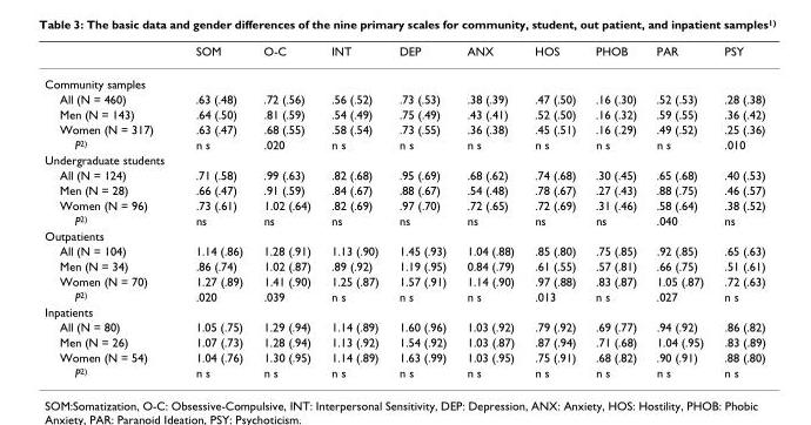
<table><thead><tr><td></td><td>SOM</td><td>O-C</td><td>INT</td><td>DEP</td><td>ANX</td><td>HOS</td><td>PHOB</td><td>PAR</td><td>PSY</td></tr></thead><tbody><tr><td colspan="10">Community samples</td></tr><tr><td>All (N = 460)</td><td>.63 (.48)</td><td>.72 (.56)</td><td>.56 (.52)</td><td>.73 (.53)</td><td>.38 (.39)</td><td>.47 (.50)</td><td>.16 (.30)</td><td>.52 (.53)</td><td>.28 (.38)</td></tr><tr><td>Men (N = 143)</td><td>.64 (.50)</td><td>.81 (.59)</td><td>.54 (.49)</td><td>.75 (.49)</td><td>.43 (.41)</td><td>.52 (.50)</td><td>.16 (.32)</td><td>.59 (.55)</td><td>.36 (.42)</td></tr><tr><td>Women (N = 317)</td><td>.63 (.47)</td><td>.68 (.55)</td><td>.58 (.54)</td><td>.73 (.55)</td><td>.36 (.38)</td><td>.45 (.51)</td><td>.16 (.29)</td><td>.49 (.52)</td><td>.25 (.36)</td></tr><tr><td>P<sup>2)</sup></td><td>n s</td><td>.020</td><td>n s</td><td>n s</td><td>n s</td><td>n s</td><td>n s</td><td>n s</td><td>.010</td></tr><tr><td colspan="10">Undergraduate students</td></tr><tr><td>All (N = 124)</td><td>.71 (.58)</td><td>.99 (.63)</td><td>.82 (.68)</td><td>.95 (.69)</td><td>.68 (.62)</td><td>.74 (.68)</td><td>.30 (.45)</td><td>.65 (.68)</td><td>.40 (.53)</td></tr><tr><td>Men (N = 28)</td><td>.66 (.47)</td><td>.91 (.59)</td><td>.84 (.67)</td><td>.88 (.67)</td><td>.54 (.48)</td><td>.78 (.67)</td><td>.27 (.43)</td><td>.88 (.75)</td><td>.46 (.57)</td></tr><tr><td>Women (N = 96)</td><td>.73 (.61)</td><td>1.02 (.64)</td><td>.82 (.69)</td><td>.97 (.70)</td><td>.72 (.65)</td><td>.72 (.69)</td><td>.31 (.46)</td><td>.58 (.64)</td><td>.38 (.52)</td></tr><tr><td>P<sup>2)</sup></td><td>ns</td><td>ns</td><td>ns</td><td>ns</td><td>ns</td><td>ns</td><td>ns</td><td>.040</td><td>ns</td></tr><tr><td colspan="10">Outpatients</td></tr><tr><td>All (N = 104)</td><td>1.14 (.86)</td><td>1.28 (.91)</td><td>1.13 (.90)</td><td>1.45 (.93)</td><td>1.04 (.88)</td><td>.85 (.80)</td><td>.75 (.85)</td><td>.92 (.85)</td><td>.65 (.63)</td></tr><tr><td>Men (N = 34)</td><td>.86 (.74)</td><td>1.02 (.87)</td><td>.89 (.92)</td><td>1.19 (.95)</td><td>0.84 (.79)</td><td>.61 (.55)</td><td>.57 (.81)</td><td>.66 (.75)</td><td>.51 (.61)</td></tr><tr><td>Women (N = 70)</td><td>1.27 (.89)</td><td>1.41 (.90)</td><td>1.25 (.87)</td><td>1.57 (.91)</td><td>1.14 (.90)</td><td>.97 (.88)</td><td>.83 (.87)</td><td>1.05 (.87)</td><td>.72 (.63)</td></tr><tr><td>P<sup>2)</sup></td><td>.020</td><td>.039</td><td>n s</td><td>n s</td><td>n s</td><td>.013</td><td>n s</td><td>.027</td><td>n s</td></tr><tr><td colspan="10">Inpatients</td></tr><tr><td>All (N = 80)</td><td>1.05 (.75)</td><td>1.29 (.94)</td><td>1.14 (.89)</td><td>1.60 (.96)</td><td>1.03 (.92)</td><td>.79 (.92)</td><td>.69 (.77)</td><td>.94 (.92)</td><td>.86 (.82)</td></tr><tr><td>Men (N = 26)</td><td>1.07 (.73)</td><td>1.28 (.94)</td><td>1.13 (.92)</td><td>1.54 (.92)</td><td>1.03 (.87)</td><td>.87 (.94)</td><td>.71 (.68)</td><td>1.04 (.95)</td><td>.83 (.89)</td></tr><tr><td>Women (N = 54)</td><td>1.04 (.76)</td><td>1.30 (.95)</td><td>1.14 (.89)</td><td>1.63 (.99)</td><td>1.03 (.95)</td><td>.75 (.91)</td><td>.68 (.82)</td><td>.90 (.91)</td><td>.88 (.80)</td></tr><tr><td>P<sup>2)</sup></td><td>n s</td><td>n s</td><td>n s</td><td>n s</td><td>n s</td><td>n s</td><td>n s</td><td>n s</td><td>n s</td></tr></tbody></table>